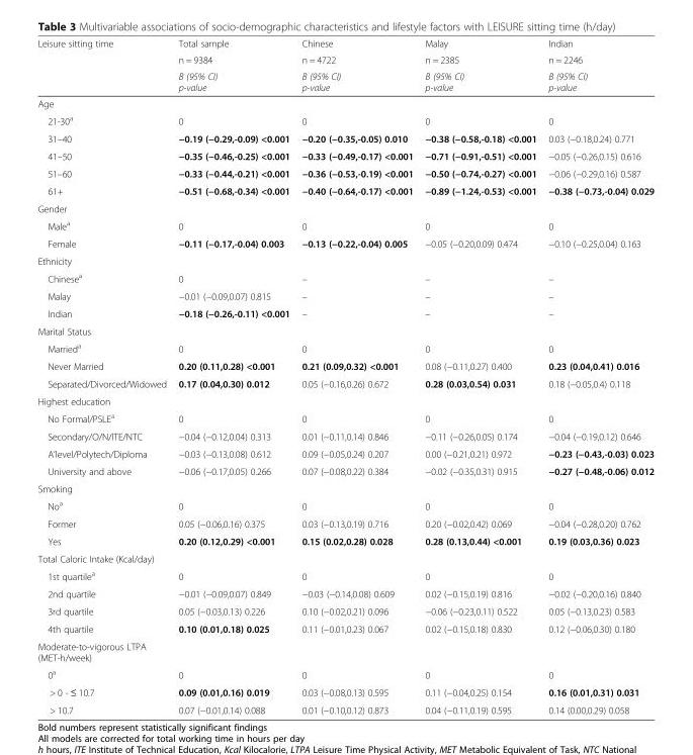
<table><thead><tr><td rowspan="3">Leisure sitting time</td><td rowspan="3">Total sample n = 9384 B (95% CI) p-value</td><td rowspan="3">Chinese n = 4722 B (95% CI) p-value</td><td rowspan="3">Malay n = 2385 B (95% CI) p-value</td><td rowspan="3">Indian n = 2246 B (95% CI) p-value</td></tr><tr></tr><tr></tr></thead><tbody><tr><td colspan="5">Age</td></tr><tr><td>21-30<sup>a</sup></td><td>0</td><td>0</td><td>0</td><td>0</td></tr><tr><td>31–40</td><td>−0.19 (−0.29,-0.09) &lt;0.001</td><td>−0.20 (−0.35,-0.05) 0.010</td><td>−0.38 (−0.58,-0.18) &lt;0.001</td><td>0.03 (−0.18,0.24) 0.771</td></tr><tr><td>41–50</td><td>−0.35 (−0.46,-0.25) &lt;0.001</td><td>−0.33 (−0.49,-0.17) &lt;0.001</td><td>−0.71 (−0.91,-0.51) &lt;0.001</td><td>−0.05 (−0.26,0.15) 0.616</td></tr><tr><td>51–60</td><td>−0.33 (−0.44,-0.21) &lt;0.001</td><td>−0.36 (−0.53,-0.19) &lt;0.001</td><td>−0.50 (−0.74,-0.27) &lt;0.001</td><td>−0.06 (−0.29,0.16) 0.587</td></tr><tr><td>61+</td><td>−0.51 (−0.68,-0.34) &lt;0.001</td><td>−0.40 (−0.64,-0.17) &lt;0.001</td><td>−0.89 (−1.24,-0.53) &lt;0.001</td><td>−0.38 (−0.73,-0.04) 0.029</td></tr><tr><td colspan="5">Gender</td></tr><tr><td>Male<sup>a</sup></td><td>0</td><td>0</td><td>0</td><td>0</td></tr><tr><td>Female</td><td>−0.11 (−0.17,-0.04) 0.003</td><td>−0.13 (−0.22,-0.04) 0.005</td><td>−0.05 (−0.20,0.09) 0.474</td><td>−0.10 (−0.25,0.04) 0.163</td></tr><tr><td colspan="5">Ethnicity</td></tr><tr><td>Chinese<sup>a</sup></td><td>0</td><td>–</td><td>–</td><td>–</td></tr><tr><td>Malay</td><td>−0.01 (−0.09,0.07) 0.815</td><td>–</td><td>–</td><td>–</td></tr><tr><td>Indian</td><td>−0.18 (−0.26,-0.11) &lt;0.001</td><td>–</td><td>–</td><td>–</td></tr><tr><td colspan="5">Marital Status</td></tr><tr><td>Married<sup>a</sup></td><td>0</td><td>0</td><td>0</td><td>0</td></tr><tr><td>Never Married</td><td>0.20 (0.11,0.28) &lt;0.001</td><td>0.21 (0.09,0.32) &lt;0.001</td><td>0.08 (−0.11,0.27) 0.400</td><td>0.23 (0.04,0.41) 0.016</td></tr><tr><td>Separated/Divorced/Widowed</td><td>0.17 (0.04,0.30) 0.012</td><td>0.05 (−0.16,0.26) 0.672</td><td>0.28 (0.03,0.54) 0.031</td><td>0.18 (−0.05,0.4) 0.118</td></tr><tr><td colspan="5">Highest education</td></tr><tr><td>No Formal/PSLE<sup>a</sup></td><td>0</td><td>0</td><td>0</td><td>0</td></tr><tr><td>Secondary/O/N/ITE/NTC</td><td>−0.04 (−0.12,0.04) 0.313</td><td>0.01 (−0.11,0.14) 0.846</td><td>−0.11 (−0.26,0.05) 0.174</td><td>−0.04 (−0.19,0.12) 0.646</td></tr><tr><td>A’level/Polytech/Diploma</td><td>−0.03 (−0.13,0.08) 0.612</td><td>0.09 (−0.05,0.24) 0.207</td><td>0.00 (−0.21,0.21) 0.972</td><td>−0.23 (−0.43,-0.03) 0.023</td></tr><tr><td>University and above</td><td>−0.06 (−0.17,0.05) 0.266</td><td>0.07 (−0.08,0.22) 0.384</td><td>−0.02 (−0.35,0.31) 0.915</td><td>−0.27 (−0.48,-0.06) 0.012</td></tr><tr><td colspan="5">Smoking</td></tr><tr><td>No<sup>a</sup></td><td>0</td><td>0</td><td>0</td><td>0</td></tr><tr><td>Former</td><td>0.05 (−0.06,0.16) 0.375</td><td>0.03 (−0.13,0.19) 0.716</td><td>0.20 (−0.02,0.42) 0.069</td><td>−0.04 (−0.28,0.20) 0.762</td></tr><tr><td>Yes</td><td>0.20 (0.12,0.29) &lt;0.001</td><td>0.15 (0.02,0.28) 0.028</td><td>0.28 (0.13,0.44) &lt;0.001</td><td>0.19 (0.03,0.36) 0.023</td></tr><tr><td colspan="5">Total Caloric Intake (Kcal/day)</td></tr><tr><td>1st quartile<sup>a</sup></td><td>0</td><td>0</td><td>0</td><td>0</td></tr><tr><td>2nd quartile</td><td>−0.01 (−0.09,0.07) 0.849</td><td>−0.03 (−0.14,0.08) 0.609</td><td>0.02 (−0.15,0.19) 0.816</td><td>−0.02 (−0.20,0.16) 0.840</td></tr><tr><td>3rd quartile</td><td>0.05 (−0.03,0.13) 0.226</td><td>0.10 (−0.02,0.21) 0.096</td><td>−0.06 (−0.23,0.11) 0.522</td><td>0.05 (−0.13,0.23) 0.583</td></tr><tr><td>4th quartile</td><td>0.10 (0.01,0.18) 0.025</td><td>0.11 (−0.01,0.23) 0.067</td><td>0.02 (−0.15,0.18) 0.830</td><td>0.12 (−0.06,0.30) 0.180</td></tr><tr><td colspan="5">Moderate-to-vigorous LTPA (MET-h/week)</td></tr><tr><td>0<sup>a</sup></td><td>0</td><td>0</td><td>0</td><td>0</td></tr><tr><td>&gt; 0 - ≤ 10.7</td><td>0.09 (0.01,0.16) 0.019</td><td>0.03 (−0.08,0.13) 0.595</td><td>0.11 (−0.04,0.25) 0.154</td><td>0.16 (0.01,0.31) 0.031</td></tr><tr><td>&gt; 10.7</td><td>0.07 (−0.01,0.14) 0.088</td><td>0.01 (−0.10,0.12) 0.873</td><td>0.04 (−0.11,0.19) 0.595</td><td>0.14 (0.00,0.29) 0.058</td></tr></tbody></table>